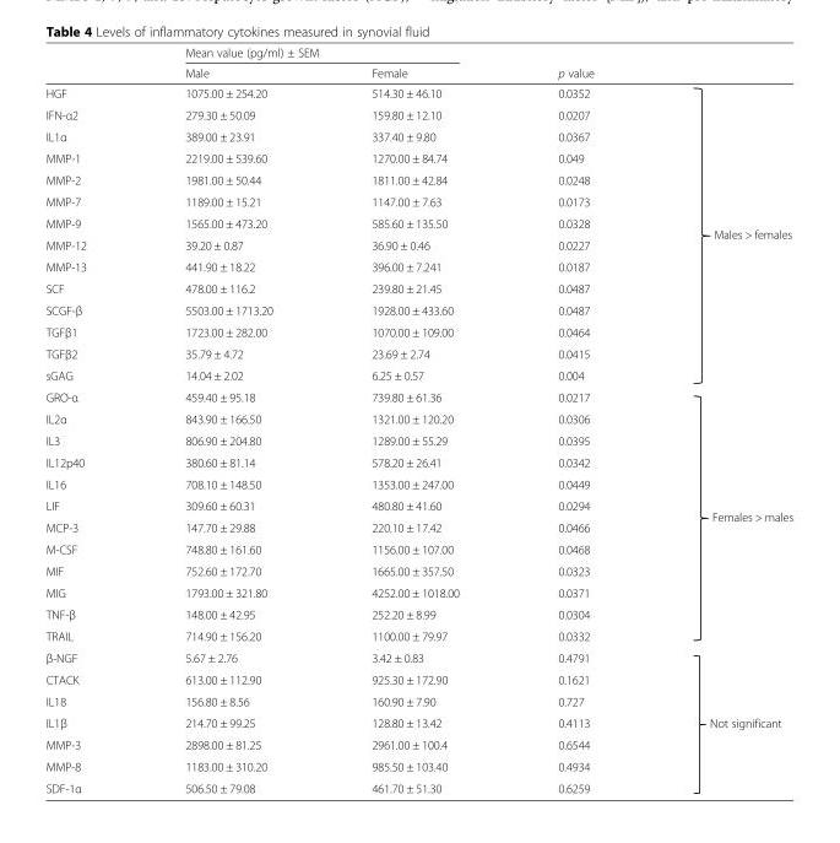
<table><thead><tr><td rowspan="2"></td><td colspan="2">Mean value (pg/ml) ± SEM</td><td rowspan="2">p value</td><td rowspan="2"></td></tr><tr><td>Male</td><td>Female</td></tr></thead><tbody><tr><td>HGF</td><td>1075.00 ± 254.20</td><td>514.30 ± 46.10</td><td>0.0352</td><td rowspan="14">Males &gt; females</td></tr><tr><td>IFN-α2</td><td>279.30 ± 50.09</td><td>159.80 ± 12.10</td><td>0.0207</td></tr><tr><td>IL1α</td><td>389.00 ± 23.91</td><td>337.40 ± 9.80</td><td>0.0367</td></tr><tr><td>MMP-1</td><td>2219.00 ± 539.60</td><td>1270.00 ± 84.74</td><td>0.049</td></tr><tr><td>MMP-2</td><td>1981.00 ± 50.44</td><td>1811.00 ± 42.84</td><td>0.0248</td></tr><tr><td>MMP-7</td><td>1189.00 ± 15.21</td><td>1147.00 ± 7.63</td><td>0.0173</td></tr><tr><td>MMP-9</td><td>1565.00 ± 473.20</td><td>585.60 ± 135.50</td><td>0.0328</td></tr><tr><td>MMP-12</td><td>39.20 ± 0.87</td><td>36.90 ± 0.46</td><td>0.0227</td></tr><tr><td>MMP-13</td><td>441.90 ± 18.22</td><td>396.00 ± 7.241</td><td>0.0187</td></tr><tr><td>SCF</td><td>478.00 ± 116.2</td><td>239.80 ± 21.45</td><td>0.0487</td></tr><tr><td>SCGF-β</td><td>5503.00 ± 1713.20</td><td>1928.00 ± 433.60</td><td>0.0487</td></tr><tr><td>TGFβ1</td><td>1723.00 ± 282.00</td><td>1070.00 ± 109.00</td><td>0.0464</td></tr><tr><td>TGFβ2</td><td>35.79 ± 4.72</td><td>23.69 ± 2.74</td><td>0.0415</td></tr><tr><td>sGAG</td><td>14.04 ± 2.02</td><td>6.25 ± 0.57</td><td>0.004</td></tr><tr><td>GRO-α</td><td>459.40 ± 95.18</td><td>739.80 ± 61.36</td><td>0.0217</td><td rowspan="12">Females &gt; males</td></tr><tr><td>IL2α</td><td>843.90 ± 166.50</td><td>1321.00 ± 120.20</td><td>0.0306</td></tr><tr><td>IL3</td><td>806.90 ± 204.80</td><td>1289.00 ± 55.29</td><td>0.0395</td></tr><tr><td>IL12p40</td><td>380.60 ± 81.14</td><td>578.20 ± 26.41</td><td>0.0342</td></tr><tr><td>IL16</td><td>708.10 ± 148.50</td><td>1353.00 ± 247.00</td><td>0.0449</td></tr><tr><td>LIF</td><td>309.60 ± 60.31</td><td>480.80 ± 41.60</td><td>0.0294</td></tr><tr><td>MCP-3</td><td>147.70 ± 29.88</td><td>220.10 ± 17.42</td><td>0.0466</td></tr><tr><td>M-CSF</td><td>748.80 ± 161.60</td><td>1156.00 ± 107.00</td><td>0.0468</td></tr><tr><td>MIF</td><td>752.60 ± 172.70</td><td>1665.00 ± 357.50</td><td>0.0323</td></tr><tr><td>MIG</td><td>1793.00 ± 321.80</td><td>4252.00 ± 1018.00</td><td>0.0371</td></tr><tr><td>TNF-β</td><td>148.00 ± 42.95</td><td>252.20 ± 8.99</td><td>0.0304</td></tr><tr><td>TRAIL</td><td>714.90 ± 156.20</td><td>1100.00 ± 79.97</td><td>0.0332</td></tr><tr><td>β-NGF</td><td>5.67 ± 2.76</td><td>3.42 ± 0.83</td><td>0.4791</td><td rowspan="7">Not significant</td></tr><tr><td>CTACK</td><td>613.00 ± 112.90</td><td>925.30 ± 172.90</td><td>0.1621</td></tr><tr><td>IL18</td><td>156.80 ± 8.56</td><td>160.90 ± 7.90</td><td>0.727</td></tr><tr><td>IL1β</td><td>214.70 ± 99.25</td><td>128.80 ± 13.42</td><td>0.4113</td></tr><tr><td>MMP-3</td><td>2898.00 ± 81.25</td><td>2961.00 ± 100.4</td><td>0.6544</td></tr><tr><td>MMP-8</td><td>1183.00 ± 310.20</td><td>985.50 ± 103.40</td><td>0.4934</td></tr><tr><td>SDF-1α</td><td>506.50 ± 79.08</td><td>461.70 ± 51.30</td><td>0.6259</td></tr></tbody></table>